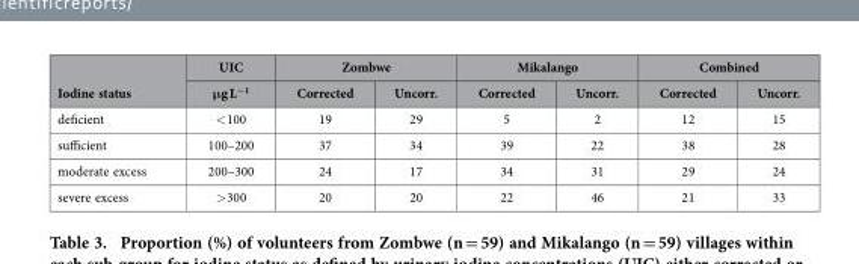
<table><thead><tr><td rowspan="2">Iodine status</td><td rowspan="2">UIC μg L<sup>−1</sup></td><td colspan="2">Zombwe</td><td colspan="2">Mikalango</td><td colspan="2">Combined</td></tr><tr><td>Corrected</td><td>Uncorr.</td><td>Corrected</td><td>Uncorr.</td><td>Corrected</td><td>Uncorr.</td></tr></thead><tbody><tr><td>deficient</td><td>&lt; 100</td><td>19</td><td>29</td><td>5</td><td>2</td><td>12</td><td>15</td></tr><tr><td>sufficient</td><td>100–200</td><td>37</td><td>34</td><td>39</td><td>22</td><td>38</td><td>28</td></tr><tr><td>moderate excess</td><td>200–300</td><td>24</td><td>17</td><td>34</td><td>31</td><td>29</td><td>24</td></tr><tr><td>severe excess</td><td>&gt; 300</td><td>20</td><td>20</td><td>22</td><td>46</td><td>21</td><td>33</td></tr></tbody></table>